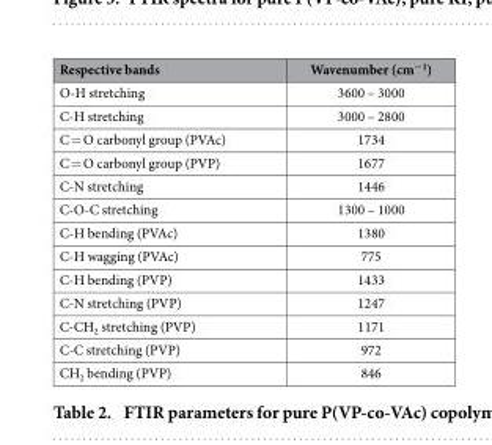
<table><thead><tr><td>Respective bands</td><td>Wavenumber (cm<sup>−1</sup>)</td></tr></thead><tbody><tr><td>O-H stretching</td><td>3600 – 3000</td></tr><tr><td>C-H stretching</td><td>3000 – 2800</td></tr><tr><td>C = O carbonyl group (PVAc)</td><td>1734</td></tr><tr><td>C = O carbonyl group (PVP)</td><td>1677</td></tr><tr><td>C-N stretching</td><td>1446</td></tr><tr><td>C-O-C stretching</td><td>1300 – 1000</td></tr><tr><td>C-H bending (PVAc)</td><td>1380</td></tr><tr><td>C-H wagging (PVAc)</td><td>775</td></tr><tr><td>C-H bending (PVP)</td><td>1433</td></tr><tr><td>C-N stretching (PVP)</td><td>1247</td></tr><tr><td>C-CH<sub>2</sub> stretching (PVP)</td><td>1171</td></tr><tr><td>C-C stretching (PVP)</td><td>972</td></tr><tr><td>CH<sub>2</sub> bending (PVP)</td><td>846</td></tr></tbody></table>